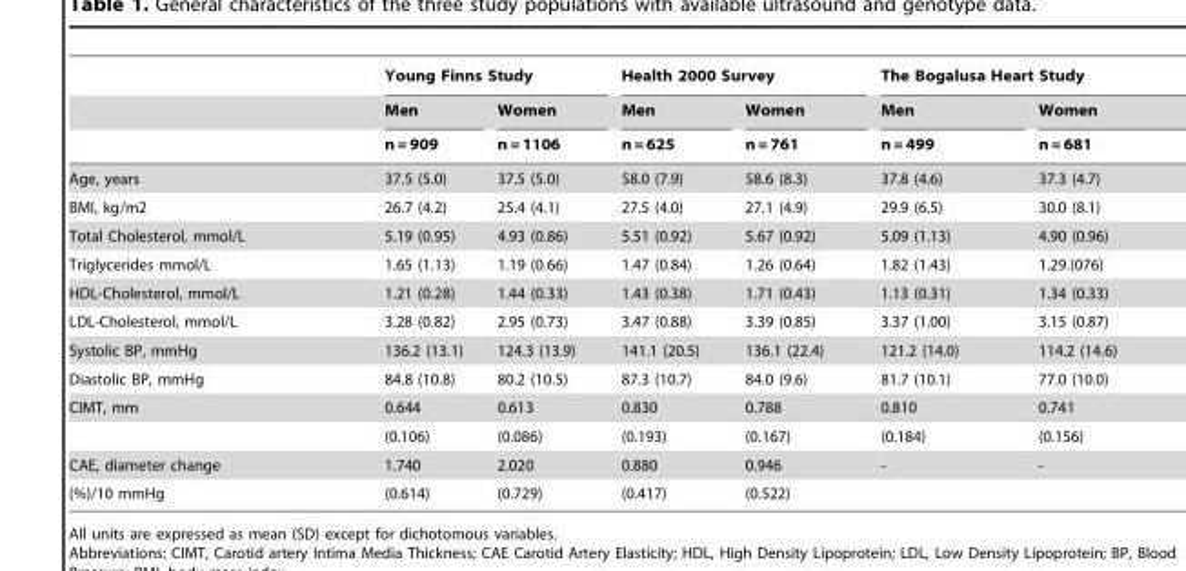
<table><thead><tr><td rowspan="3"></td><td colspan="2">Young Finns Study</td><td colspan="2">Health 2000 Survey</td><td colspan="2">The Bogalusa Heart Study</td></tr><tr><td rowspan="2">Men n = 909</td><td rowspan="2">Women n = 1106</td><td rowspan="2">Men n = 625</td><td rowspan="2">Women n = 761</td><td rowspan="2">Men n = 499</td><td rowspan="2">Women n = 681</td></tr><tr></tr></thead><tbody><tr><td>Age, years</td><td>37.5 (5.0)</td><td>37.5 (5.0)</td><td>58.0 (7.9)</td><td>58.6 (8.3)</td><td>37.8 (4.6)</td><td>37.3 (4.7)</td></tr><tr><td>BMI, kg/m2</td><td>26.7 (4.2)</td><td>25.4 (4.1)</td><td>27.5 (4.0)</td><td>27.1 (4.9)</td><td>29.9 (6.5)</td><td>30.0 (8.1)</td></tr><tr><td>Total Cholesterol, mmol/L</td><td>5.19 (0.95)</td><td>4.93 (0.86)</td><td>5.51 (0.92)</td><td>5.67 (0.92)</td><td>5.09 (1.13)</td><td>4.90 (0.96)</td></tr><tr><td>Triglycerides mmol/L</td><td>1.65 (1.13)</td><td>1.19 (0.66)</td><td>1.47 (0.84)</td><td>1.26 (0.64)</td><td>1.82 (1.43)</td><td>1.29.(076)</td></tr><tr><td>HDL-Cholesterol, mmol/L</td><td>1.21 (0.28)</td><td>1.44 (0.33)</td><td>1.43 (0.38)</td><td>1.71 (0.43)</td><td>1.13 (0.31)</td><td>1.34 (0.33)</td></tr><tr><td>LDL-Cholesterol, mmol/L</td><td>3.28 (0.82)</td><td>2.95 (0.73)</td><td>3.47 (0.88)</td><td>3.39 (0.85)</td><td>3.37 (1.00)</td><td>3.15 (0.87)</td></tr><tr><td>Systolic BP, mmHg</td><td>136.2 (13.1)</td><td>124.3 (13.9)</td><td>141.1 (20.5)</td><td>136.1 (22.4)</td><td>121.2 (14.0)</td><td>114.2 (14.6)</td></tr><tr><td>Diastolic BP, mmHg</td><td>84.8 (10.8)</td><td>80.2 (10.5)</td><td>87.3 (10.7)</td><td>84.0 (9.6)</td><td>81.7 (10.1)</td><td>77.0 (10.0)</td></tr><tr><td rowspan="2">CIMT, mm</td><td>0.644</td><td>0.613</td><td>0.830</td><td>0.788</td><td>0.810</td><td>0.741</td></tr><tr><td>(0.106)</td><td>(0.086)</td><td>(0.193)</td><td>(0.167)</td><td>(0.184)</td><td>(0.156)</td></tr><tr><td>CAE, diameter change</td><td>1.740</td><td>2.020</td><td>0.880</td><td>0.946</td><td>-</td><td>-</td></tr><tr><td>(%)/10 mmHg</td><td>(0.614)</td><td>(0.729)</td><td>(0.417)</td><td>(0.522)</td><td></td><td></td></tr></tbody></table>